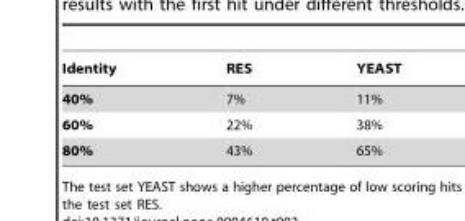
<table><thead><tr><td>Identity</td><td>RES</td><td>YEAST</td></tr></thead><tbody><tr><td>40%</td><td>7%</td><td>11%</td></tr><tr><td>60%</td><td>22%</td><td>38%</td></tr><tr><td>80%</td><td>43%</td><td>65%</td></tr></tbody></table>